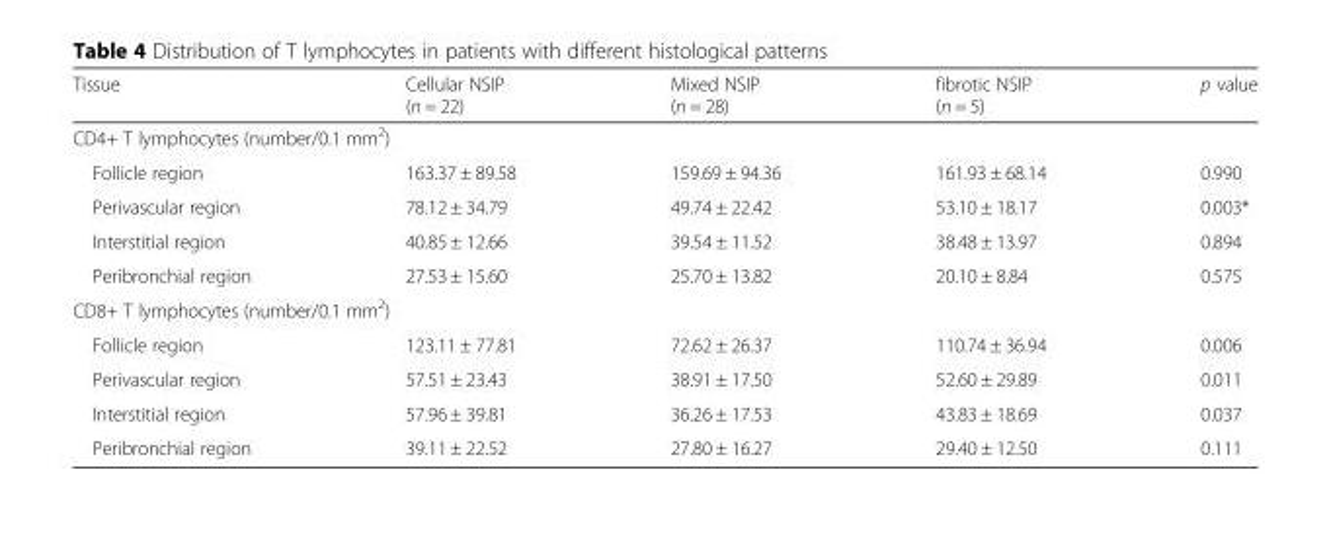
<table><thead><tr><td>Tissue</td><td>Cellular NSIP (n = 22)</td><td>Mixed NSIP (n = 28)</td><td>fibrotic NSIP (n = 5)</td><td>p value</td></tr></thead><tbody><tr><td colspan="5">CD4+ T lymphocytes (number/0.1 mm<sup>2</sup>)</td></tr><tr><td>Follicle region</td><td>163.37 ± 89.58</td><td>159.69 ± 94.36</td><td>161.93 ± 68.14</td><td>0.990</td></tr><tr><td>Perivascular region</td><td>78.12 ± 34.79</td><td>49.74 ± 22.42</td><td>53.10 ± 18.17</td><td>0.003*</td></tr><tr><td>Interstitial region</td><td>40.85 ± 12.66</td><td>39.54 ± 11.52</td><td>38.48 ± 13.97</td><td>0.894</td></tr><tr><td>Peribronchial region</td><td>27.53 ± 15.60</td><td>25.70 ± 13.82</td><td>20.10 ± 8.84</td><td>0.575</td></tr><tr><td colspan="5">CD8+ T lymphocytes (number/0.1 mm<sup>2</sup>)</td></tr><tr><td>Follicle region</td><td>123.11 ± 77.81</td><td>72.62 ± 26.37</td><td>110.74 ± 36.94</td><td>0.006</td></tr><tr><td>Perivascular region</td><td>57.51 ± 23.43</td><td>38.91 ± 17.50</td><td>52.60 ± 29.89</td><td>0.011</td></tr><tr><td>Interstitial region</td><td>57.96 ± 39.81</td><td>36.26 ± 17.53</td><td>43.83 ± 18.69</td><td>0.037</td></tr><tr><td>Peribronchial region</td><td>39.11 ± 22.52</td><td>27.80 ± 16.27</td><td>29.40 ± 12.50</td><td>0.111</td></tr></tbody></table>